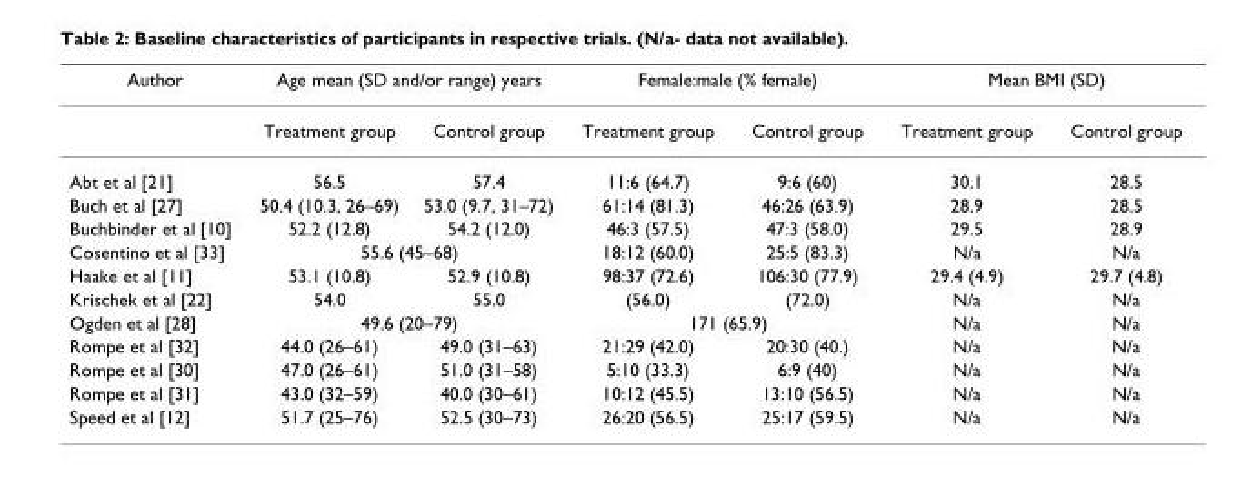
<table><thead><tr><td rowspan="2">Author</td><td colspan="2">Age mean (SD and/or range) years</td><td colspan="2">Female:male (% female)</td><td colspan="2">Mean BMI (SD)</td></tr><tr><td>Treatment group</td><td>Control group</td><td>Treatment group</td><td>Control group</td><td>Treatment group</td><td>Control group</td></tr></thead><tbody><tr><td>Abt et al [21]</td><td>56.5</td><td>57.4</td><td>11:6 (64.7)</td><td>9:6 (60)</td><td>30.1</td><td>28.5</td></tr><tr><td>Buch et al [27]</td><td>50.4 (10.3, 26–69)</td><td>53.0 (9.7, 31–72)</td><td>61:14 (81.3)</td><td>46:26 (63.9)</td><td>28.9</td><td>28.5</td></tr><tr><td>Buchbinder et al [10]</td><td>52.2 (12.8)</td><td>54.2 (12.0)</td><td>46:3 (57.5)</td><td>47:3 (58.0)</td><td>29.5</td><td>28.9</td></tr><tr><td>Cosentino et al [33]</td><td colspan="2">55.6 (45–68)</td><td>18:12 (60.0)</td><td>25:5 (83.3)</td><td>N/a</td><td>N/a</td></tr><tr><td>Haake et al [11]</td><td>53.1 (10.8)</td><td>52.9 (10.8)</td><td>98:37 (72.6)</td><td>106:30 (77.9)</td><td>29.4 (4.9)</td><td>29.7 (4.8)</td></tr><tr><td>Krischek et al [22]</td><td>54.0</td><td>55.0</td><td>(56.0)</td><td>(72.0)</td><td>N/a</td><td>N/a</td></tr><tr><td>Ogden et al [28]</td><td colspan="2">49.6 (20–79)</td><td colspan="2">171 (65.9)</td><td>N/a</td><td>N/a</td></tr><tr><td>Rompe et al [32]</td><td>44.0 (26–61)</td><td>49.0 (31–63)</td><td>21:29 (42.0)</td><td>20:30 (40.)</td><td>N/a</td><td>N/a</td></tr><tr><td>Rompe et al [30]</td><td>47.0 (26–61)</td><td>51.0 (31–58)</td><td>5:10 (33.3)</td><td>6:9 (40)</td><td>N/a</td><td>N/a</td></tr><tr><td>Rompe et al [31]</td><td>43.0 (32–59)</td><td>40.0 (30–61)</td><td>10:12 (45.5)</td><td>13:10 (56.5)</td><td>N/a</td><td>N/a</td></tr><tr><td>Speed et al [12]</td><td>51.7 (25–76)</td><td>52.5 (30–73)</td><td>26:20 (56.5)</td><td>25:17 (59.5)</td><td>N/a</td><td>N/a</td></tr></tbody></table>